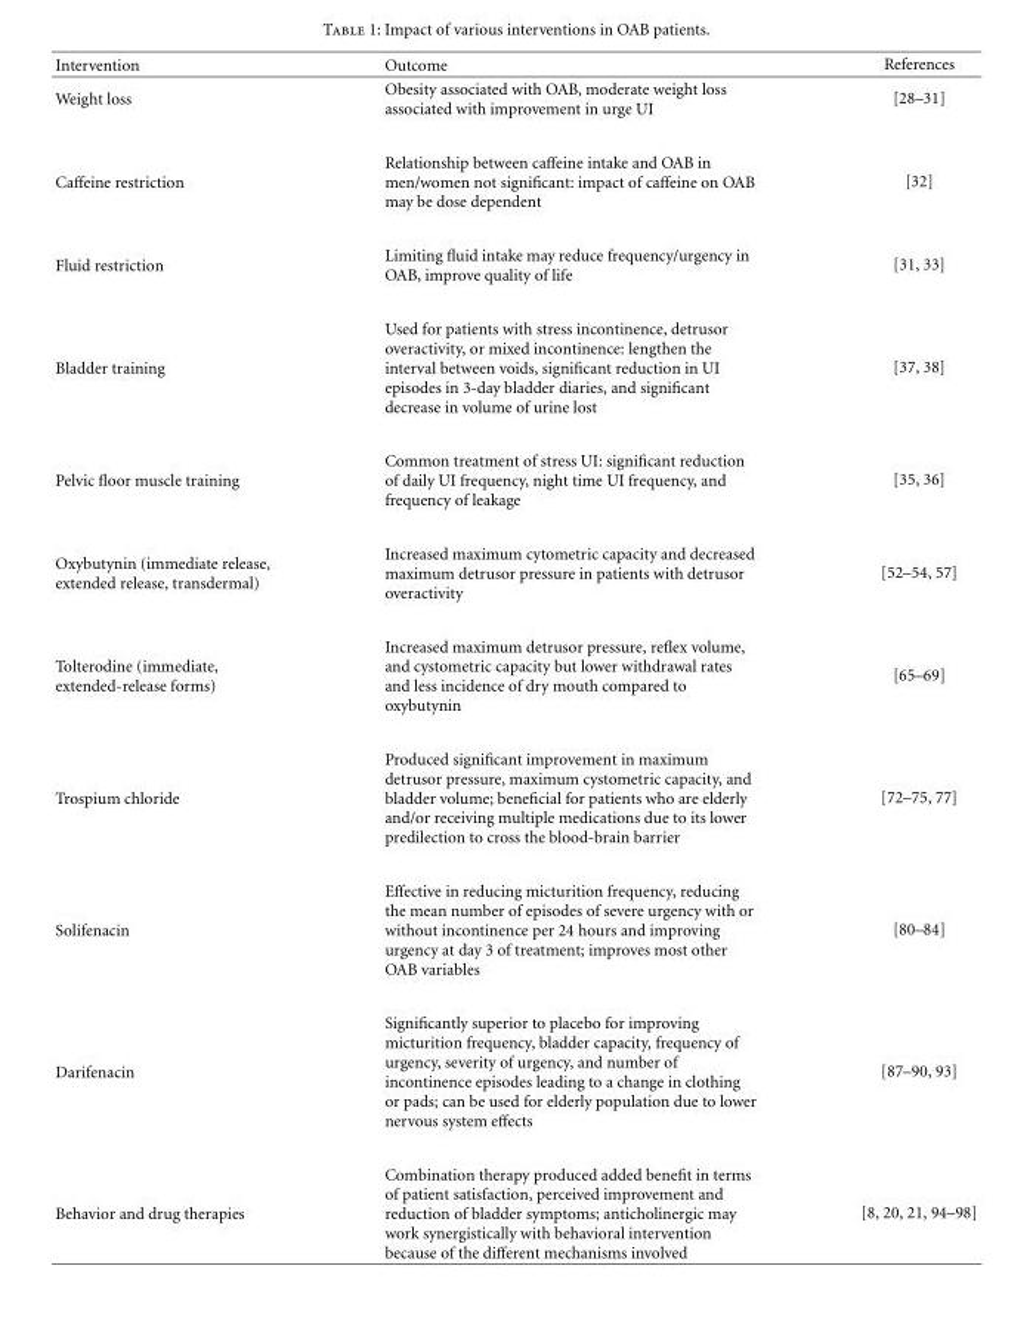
<table><thead><tr><td>Intervention</td><td>Outcome</td><td>References</td></tr></thead><tbody><tr><td>Weight loss</td><td>Obesity associated with OAB, moderate weight loss associated with improvement in urge UI</td><td>[28–31]</td></tr><tr><td>Caffeine restriction</td><td>Relationship between caffeine intake and OAB in men/women not significant: impact of caffeine on OAB may be dose dependent</td><td>[32]</td></tr><tr><td>Fluid restriction</td><td>Limiting fluid intake may reduce frequency/urgency in OAB, improve quality of life</td><td>[31, 33]</td></tr><tr><td>Bladder training</td><td>Used for patients with stress incontinence, detrusor overactivity, or mixed incontinence: lengthen the interval between voids, significant reduction in UI episodes in 3-day bladder diaries, and significant decrease in volume of urine lost</td><td>[37, 38]</td></tr><tr><td>Pelvic floor muscle training</td><td>Common treatment of stress UI: significant reduction of daily UI frequency, night time UI frequency, and frequency of leakage</td><td>[35, 36]</td></tr><tr><td>Oxybutynin (immediate release, extended release, transdermal)</td><td>Increased maximum cytometric capacity and decreased maximum detrusor pressure in patients with detrusor overactivity</td><td>[52–54, 57]</td></tr><tr><td>Tolterodine (immediate, extended-release forms)</td><td>Increased maximum detrusor pressure, reflex volume, and cystometric capacity but lower withdrawal rates and less incidence of dry mouth compared to oxybutynin</td><td>[65–69]</td></tr><tr><td>Trospium chloride</td><td>Produced significant improvement in maximum detrusor pressure, maximum cystometric capacity, and bladder volume; beneficial for patients who are elderly and/or receiving multiple medications due to its lower predilection to cross the blood-brain barrier</td><td>[72–75, 77]</td></tr><tr><td>Solifenacin</td><td>Effective in reducing micturition frequency, reducing the mean number of episodes of severe urgency with or without incontinence per 24 hours and improving urgency at day 3 of treatment; improves most other OAB variables</td><td>[80–84]</td></tr><tr><td>Darifenacin</td><td>Significantly superior to placebo for improving micturition frequency, bladder capacity, frequency of urgency, severity of urgency, and number of incontinence episodes leading to a change in clothing or pads; can be used for elderly population due to lower nervous system effects</td><td>[87–90, 93]</td></tr><tr><td>Behavior and drug therapies</td><td>Combination therapy produced added benefit in terms of patient satisfaction, perceived improvement and reduction of bladder symptoms; anticholinergic may work synergistically with behavioral intervention because of the different mechanisms involved</td><td>[8, 20, 21, 94–98]</td></tr></tbody></table>